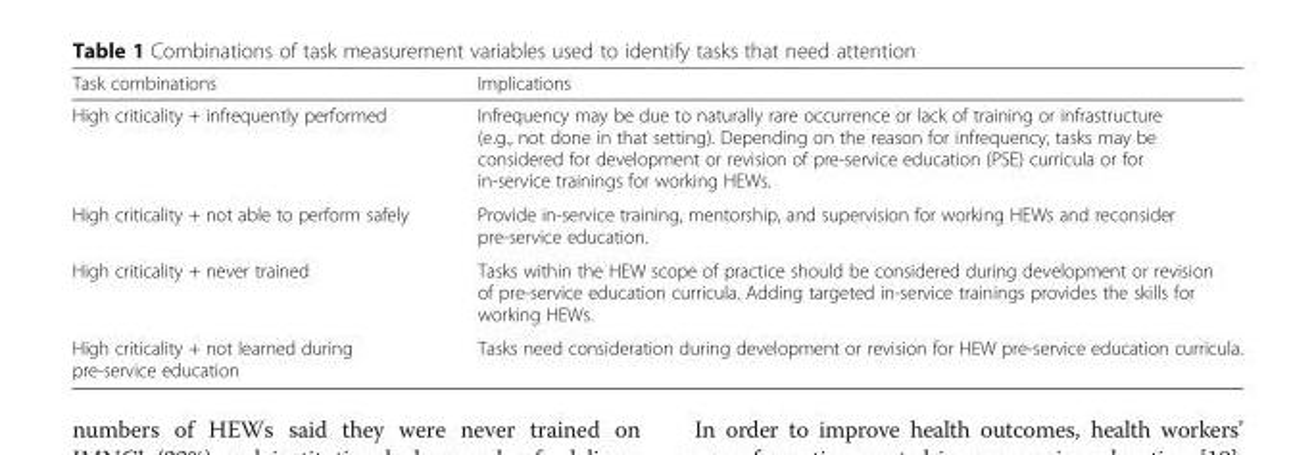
<table><thead><tr><td>Task combinations</td><td>Implications</td></tr></thead><tbody><tr><td>High criticality + infrequently performed</td><td>Infrequency may be due to naturally rare occurrence or lack of training or infrastructure (e.g., not done in that setting). Depending on the reason for infrequency, tasks may be considered for development or revision of pre-service education (PSE) curricula or for in-service trainings for working HEWs.</td></tr><tr><td>High criticality + not able to perform safely</td><td>Provide in-service training, mentorship, and supervision for working HEWs and reconsider pre-service education.</td></tr><tr><td>High criticality + never trained</td><td>Tasks within the HEW scope of practice should be considered during development or revision of pre-service education curricula. Adding targeted in-service trainings provides the skills for working HEWs.</td></tr><tr><td>High criticality + not learned during pre-service education</td><td>Tasks need consideration during development or revision for HEW pre-service education curricula.</td></tr></tbody></table>